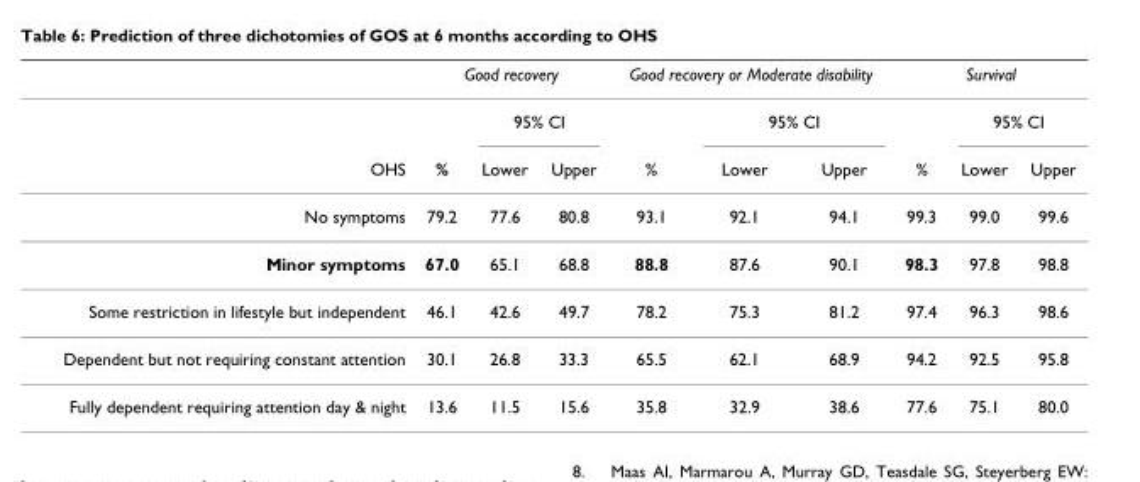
<table><thead><tr><td rowspan="3">OHS</td><td colspan="3">Good recovery</td><td colspan="3">Good recovery or Moderate disability</td><td colspan="3">Survival</td></tr><tr><td rowspan="2">%</td><td colspan="2">95% CI</td><td rowspan="2">%</td><td colspan="2">95% CI</td><td rowspan="2">%</td><td colspan="2">95% CI</td></tr><tr><td>Lower</td><td>Upper</td><td>Lower</td><td>Upper</td><td>Lower</td><td>Upper</td></tr></thead><tbody><tr><td>No symptoms</td><td>79.2</td><td>77.6</td><td>80.8</td><td>93.1</td><td>92.1</td><td>94.1</td><td>99.3</td><td>99.0</td><td>99.6</td></tr><tr><td>Minor symptoms</td><td>67.0</td><td>65.1</td><td>68.8</td><td>88.8</td><td>87.6</td><td>90.1</td><td>98.3</td><td>97.8</td><td>98.8</td></tr><tr><td>Some restriction in lifestyle but independent</td><td>46.1</td><td>42.6</td><td>49.7</td><td>78.2</td><td>75.3</td><td>81.2</td><td>97.4</td><td>96.3</td><td>98.6</td></tr><tr><td>Dependent but not requiring constant attention</td><td>30.1</td><td>26.8</td><td>33.3</td><td>65.5</td><td>62.1</td><td>68.9</td><td>94.2</td><td>92.5</td><td>95.8</td></tr><tr><td>Fully dependent requiring attention day &amp; night</td><td>13.6</td><td>11.5</td><td>15.6</td><td>35.8</td><td>32.9</td><td>38.6</td><td>77.6</td><td>75.1</td><td>80.0</td></tr></tbody></table>